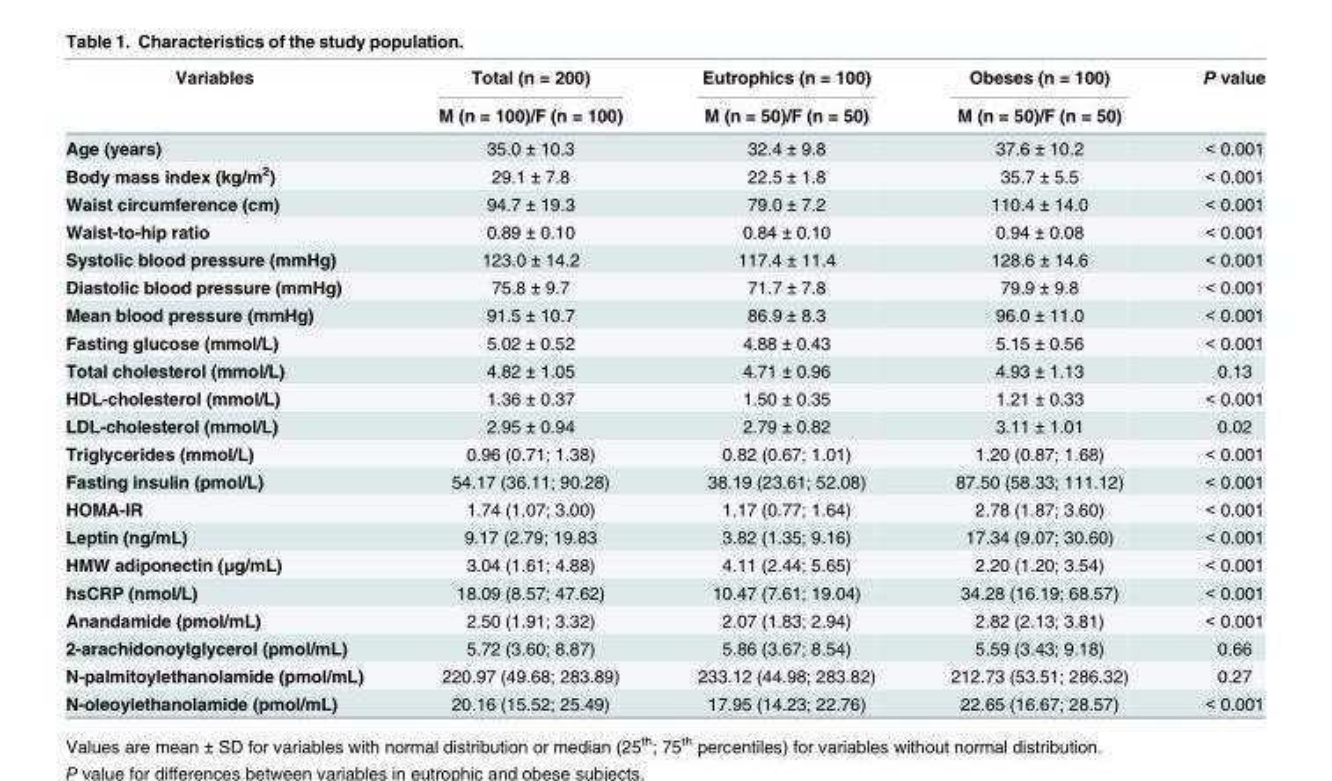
<table><thead><tr><td rowspan="2">Variables</td><td rowspan="2">Total (n = 200) M (n = 100)/F (n = 100)</td><td rowspan="2">Eutrophics (n = 100) M (n = 50)/F (n = 50)</td><td rowspan="2">Obeses (n = 100) M (n = 50)/F (n = 50)</td><td rowspan="2">P value</td></tr><tr></tr></thead><tbody><tr><td>Age (years)</td><td>35.0 ± 10.3</td><td>32.4 ± 9.8</td><td>37.6 ± 10.2</td><td>&lt; 0.001</td></tr><tr><td>Body mass index (kg/m<sup>2</sup>)</td><td>29.1 ± 7.8</td><td>22.5 ± 1.8</td><td>35.7 ± 5.5</td><td>&lt; 0.001</td></tr><tr><td>Waist circumference (cm)</td><td>94.7 ± 19.3</td><td>79.0 ± 7.2</td><td>110.4 ± 14.0</td><td>&lt; 0.001</td></tr><tr><td>Waist-to-hip ratio</td><td>0.89 ± 0.10</td><td>0.84 ± 0.10</td><td>0.94 ± 0.08</td><td>&lt; 0.001</td></tr><tr><td>Systolic blood pressure (mmHg)</td><td>123.0 ± 14.2</td><td>117.4 ± 11.4</td><td>128.6 ± 14.6</td><td>&lt; 0.001</td></tr><tr><td>Diastolic blood pressure (mmHg)</td><td>75.8 ± 9.7</td><td>71.7 ± 7.8</td><td>79.9 ± 9.8</td><td>&lt; 0.001</td></tr><tr><td>Mean blood pressure (mmHg)</td><td>91.5 ± 10.7</td><td>86.9 ± 8.3</td><td>96.0 ± 11.0</td><td>&lt; 0.001</td></tr><tr><td>Fasting glucose (mmol/L)</td><td>5.02 ± 0.52</td><td>4.88 ± 0.43</td><td>5.15 ± 0.56</td><td>&lt; 0.001</td></tr><tr><td>Total cholesterol (mmol/L)</td><td>4.82 ± 1.05</td><td>4.71 ± 0.96</td><td>4.93 ± 1.13</td><td>0.13</td></tr><tr><td>HDL-cholesterol (mmol/L)</td><td>1.36 ± 0.37</td><td>1.50 ± 0.35</td><td>1.21 ± 0.33</td><td>&lt; 0.001</td></tr><tr><td>LDL-cholesterol (mmol/L)</td><td>2.95 ± 0.94</td><td>2.79 ± 0.82</td><td>3.11 ± 1.01</td><td>0.02</td></tr><tr><td>Triglycerides (mmol/L)</td><td>0.96 (0.71; 1.38)</td><td>0.82 (0.67; 1.01)</td><td>1.20 (0.87; 1.68)</td><td>&lt; 0.001</td></tr><tr><td>Fasting insulin (pmol/L)</td><td>54.17 (36.11; 90.28)</td><td>38.19 (23.61; 52.08)</td><td>87.50 (58.33; 111.12)</td><td>&lt; 0.001</td></tr><tr><td>HOMA-IR</td><td>1.74 (1.07; 3.00)</td><td>1.17 (0.77; 1.64)</td><td>2.78 (1.87; 3.60)</td><td>&lt; 0.001</td></tr><tr><td>Leptin (ng/mL)</td><td>9.17 (2.79; 19.83</td><td>3.82 (1.35; 9.16)</td><td>17.34 (9.07; 30.60)</td><td>&lt; 0.001</td></tr><tr><td>HMW adiponectin (μg/mL)</td><td>3.04 (1.61; 4.88)</td><td>4.11 (2.44; 5.65)</td><td>2.20 (1.20; 3.54)</td><td>&lt; 0.001</td></tr><tr><td>hsCRP (nmol/L)</td><td>18.09 (8.57; 47.62)</td><td>10.47 (7.61; 19.04)</td><td>34.28 (16.19; 68.57)</td><td>&lt; 0.001</td></tr><tr><td>Anandamide (pmol/mL)</td><td>2.50 (1.91; 3.32)</td><td>2.07 (1.83; 2.94)</td><td>2.82 (2.13; 3.81)</td><td>&lt; 0.001</td></tr><tr><td>2-arachidonoylglycerol (pmol/mL)</td><td>5.72 (3.60; 8.87)</td><td>5.86 (3.67; 8.54)</td><td>5.59 (3.43; 9.18)</td><td>0.66</td></tr><tr><td>N-palmitoylethanolamide (pmol/mL)</td><td>220.97 (49.68; 283.89)</td><td>233.12 (44.98; 283.82)</td><td>212.73 (53.51; 286.32)</td><td>0.27</td></tr><tr><td>N-oleoylethanolamide (pmol/mL)</td><td>20.16 (15.52; 25.49)</td><td>17.95 (14.23; 22.76)</td><td>22.65 (16.67; 28.57)</td><td>&lt; 0.001</td></tr></tbody></table>